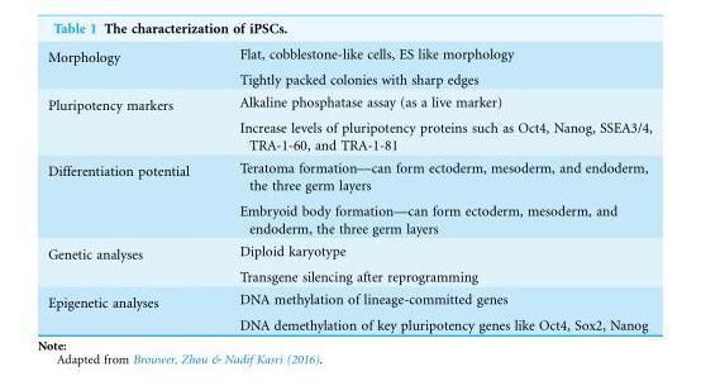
<table><tbody><tr><td rowspan="2">Morphology</td><td>Flat, cobblestone-like cells, ES like morphology</td></tr><tr><td>Tightly packed colonies with sharp edges</td></tr><tr><td rowspan="2">Pluripotency markers</td><td>Alkaline phosphatase assay (as a live marker)</td></tr><tr><td>Increase levels of pluripotency proteins such as Oct4, Nanog, SSEA3/4, TRA-1-60, and TRA-1-81</td></tr><tr><td rowspan="2">Differentiation potential</td><td>Teratoma formation—can form ectoderm, mesoderm, and endoderm, the three germ layers</td></tr><tr><td>Embryoid body formation—can form ectoderm, mesoderm, and endoderm, the three germ layers</td></tr><tr><td rowspan="2">Genetic analyses</td><td>Diploid karyotype</td></tr><tr><td>Transgene silencing after reprogramming</td></tr><tr><td rowspan="2">Epigenetic analyses</td><td>DNA methylation of lineage-committed genes</td></tr><tr><td>DNA demethylation of key pluripotency genes like Oct4, Sox2, Nanog</td></tr></tbody></table>